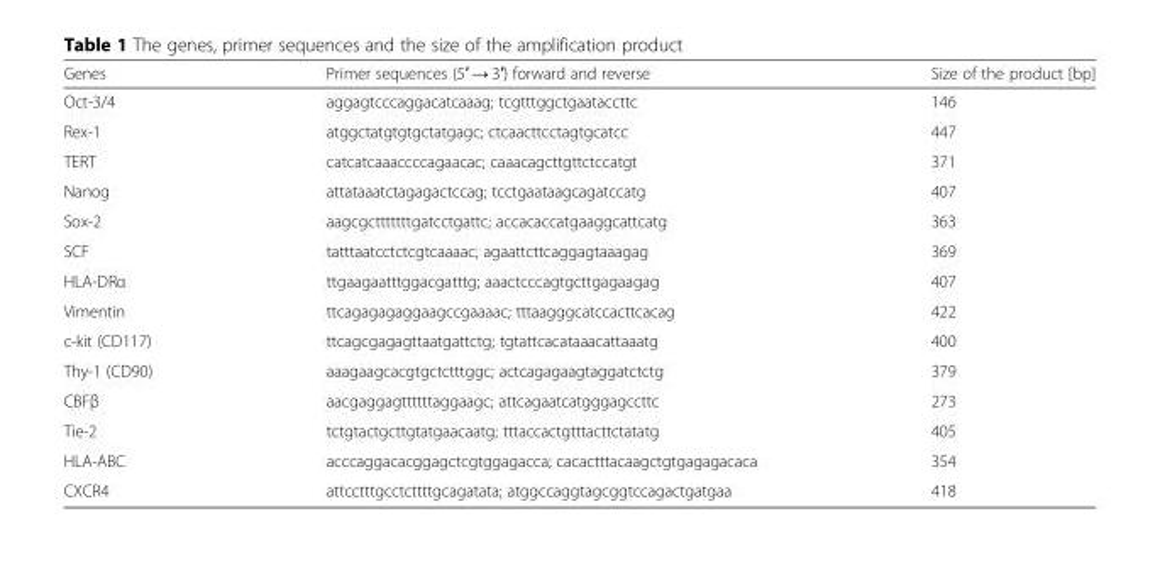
<table><thead><tr><td>Genes</td><td>Primer sequences (5′ → 3′) forward and reverse</td><td>Size of the product [bp]</td></tr></thead><tbody><tr><td>Oct-3/4</td><td>aggagtcccaggacatcaaag; tcgtttggctgaataccttc</td><td>146</td></tr><tr><td>Rex-1</td><td>atggctatgtgtgctatgagc; ctcaacttcctagtgcatcc</td><td>447</td></tr><tr><td>TERT</td><td>catcatcaaaccccagaacac; caaacagcttgttctccatgt</td><td>371</td></tr><tr><td>Nanog</td><td>attataaatctagagactccag; tcctgaataagcagatccatg</td><td>407</td></tr><tr><td>Sox-2</td><td>aagcgctttttttgatcctgattc; accacaccatgaaggcattcatg</td><td>363</td></tr><tr><td>SCF</td><td>tatttaatcctctcgtcaaaac; agaattcttcaggagtaaagag</td><td>369</td></tr><tr><td>HLA-DRα</td><td>ttgaagaatttggacgatttg; aaactcccagtgcttgagaagag</td><td>407</td></tr><tr><td>Vimentin</td><td>ttcagagagaggaagccgaaaac; tttaagggcatccacttcacag</td><td>422</td></tr><tr><td>c-kit (CD117)</td><td>ttcagcgagagttaatgattctg; tgtattcacataaacattaaatg</td><td>400</td></tr><tr><td>Thy-1 (CD90)</td><td>aaagaagcacgtgctctttggc; actcagagaagtaggatctctg</td><td>379</td></tr><tr><td>CBFβ</td><td>aacgaggagttttttaggaagc; attcagaatcatgggagccttc</td><td>273</td></tr><tr><td>Tie-2</td><td>tctgtactgcttgtatgaacaatg; tttaccactgtttacttctatatg</td><td>405</td></tr><tr><td>HLA-ABC</td><td>acccaggacacggagctcgtggagacca; cacactttacaagctgtgagagacaca</td><td>354</td></tr><tr><td>CXCR4</td><td>attcctttgcctcttttgcagatata; atggccaggtagcggtccagactgatgaa</td><td>418</td></tr></tbody></table>